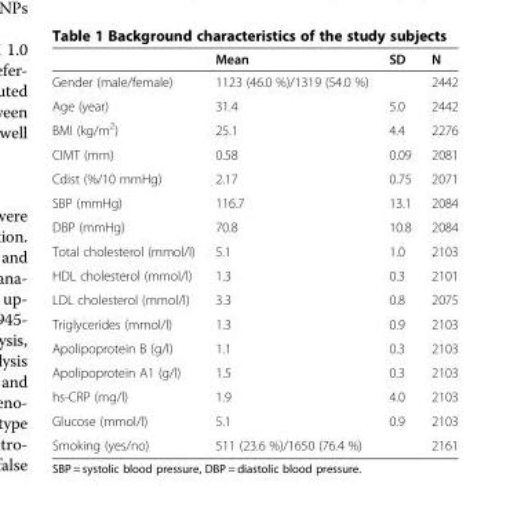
<table><thead><tr><td></td><td>Mean</td><td>SD</td><td>N</td></tr></thead><tbody><tr><td>Gender (male/female)</td><td>1123 (46.0 %)/1319 (54.0 %)</td><td></td><td>2442</td></tr><tr><td>Age (year)</td><td>31.4</td><td>5.0</td><td>2442</td></tr><tr><td>BMI (kg/m<sup>2</sup>)</td><td>25.1</td><td>4.4</td><td>2276</td></tr><tr><td>CIMT (mm)</td><td>0.58</td><td>0.09</td><td>2081</td></tr><tr><td>Cdist (%/10 mmHg)</td><td>2.17</td><td>0.75</td><td>2071</td></tr><tr><td>SBP (mmHg)</td><td>116.7</td><td>13.1</td><td>2084</td></tr><tr><td>DBP (mmHg)</td><td>70.8</td><td>10.8</td><td>2084</td></tr><tr><td>Total cholesterol (mmol/l)</td><td>5.1</td><td>1.0</td><td>2103</td></tr><tr><td>HDL cholesterol (mmol/l)</td><td>1.3</td><td>0.3</td><td>2101</td></tr><tr><td>LDL cholesterol (mmol/l)</td><td>3.3</td><td>0.8</td><td>2075</td></tr><tr><td>Triglycerides (mmol/l)</td><td>1.3</td><td>0.9</td><td>2103</td></tr><tr><td>Apolipoprotein B (g/l)</td><td>1.1</td><td>0.3</td><td>2103</td></tr><tr><td>Apolipoprotein A1 (g/l)</td><td>1.5</td><td>0.3</td><td>2103</td></tr><tr><td>hs-CRP (mg/l)</td><td>1.9</td><td>4.0</td><td>2103</td></tr><tr><td>Glucose (mmol/l)</td><td>5.1</td><td>0.9</td><td>2103</td></tr><tr><td>Smoking (yes/no)</td><td>511 (23.6 %)/1650 (76.4 %)</td><td></td><td>2161</td></tr></tbody></table>